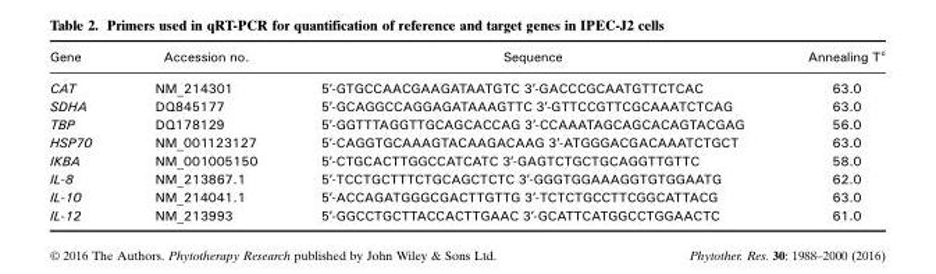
<table><thead><tr><td>Gene</td><td>Accession no.</td><td>Sequence</td><td>Annealing T°</td></tr></thead><tbody><tr><td>CAT</td><td>NM_214301</td><td>5′-GTGCCAACGAAGATAATGTC 3′-GACCCGCAATGTTCTCAC</td><td>63.0</td></tr><tr><td>SDHA</td><td>DQ845177</td><td>5′-GCAGGCCAGGAGATAAAGTTC 3′-GTTCCGTTCGCAAATCTCAG</td><td>63.0</td></tr><tr><td>TBP</td><td>DQ178129</td><td>5′-GGTTTAGGTTGCAGCACCAG 3′-CCAAATAGCAGCACAGTACGAG</td><td>56.0</td></tr><tr><td>HSP70</td><td>NM_001123127</td><td>5′-CAGGTGCAAAGTACAAGACAAG 3′-ATGGGACGACAAATCTGCT</td><td>63.0</td></tr><tr><td>IKBA</td><td>NM_001005150</td><td>5′-CTGCACTTGGCCATCATC 3′-GAGTCTGCTGCAGGTTGTTC</td><td>58.0</td></tr><tr><td>IL-8</td><td>NM_213867.1</td><td>5′-TCCTGCTTTCTGCAGCTCTC 3′-GGGTGGAAAGGTGTGGAATG</td><td>62.0</td></tr><tr><td>IL-10</td><td>NM_214041.1</td><td>5′-ACCAGATGGGCGACTTGTTG 3′-TCTCTGCCTTCGGCATTACG</td><td>63.0</td></tr><tr><td>IL-12</td><td>NM_213993</td><td>5′-GGCCTGCTTACCACTTGAAC 3′-GCATTCATGGCCTGGAACTC</td><td>61.0</td></tr></tbody></table>